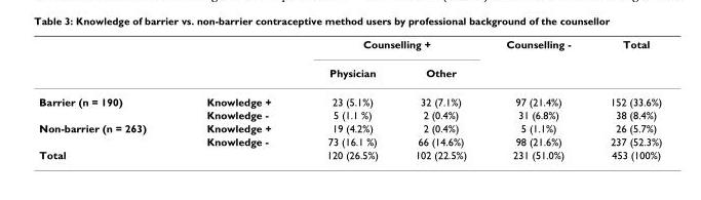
<table><thead><tr><td rowspan="2"></td><td rowspan="2"></td><td colspan="2">Counselling +</td><td rowspan="2">Counselling -</td><td rowspan="2">Total</td></tr><tr><td>Physician</td><td>Other</td></tr></thead><tbody><tr><td rowspan="2">Barrier (n = 190)</td><td>Knowledge +</td><td>23 (5.1%)</td><td>32 (7.1%)</td><td>97 (21.4%)</td><td>152 (33.6%)</td></tr><tr><td>Knowledge -</td><td>5 (1.1 %)</td><td>2 (0.4%)</td><td>31 (6.8%)</td><td>38 (8.4%)</td></tr><tr><td rowspan="2">Non-barrier (n = 263)</td><td>Knowledge +</td><td>19 (4.2%)</td><td>2 (0.4%)</td><td>5 (1.1%)</td><td>26 (5.7%)</td></tr><tr><td>Knowledge -</td><td>73 (16.1 %)</td><td>66 (14.6%)</td><td>98 (21.6%)</td><td>237 (52.3%)</td></tr><tr><td colspan="2">Total</td><td>120 (26.5%)</td><td>102 (22.5%)</td><td>231 (51.0%)</td><td>453 (100%)</td></tr></tbody></table>